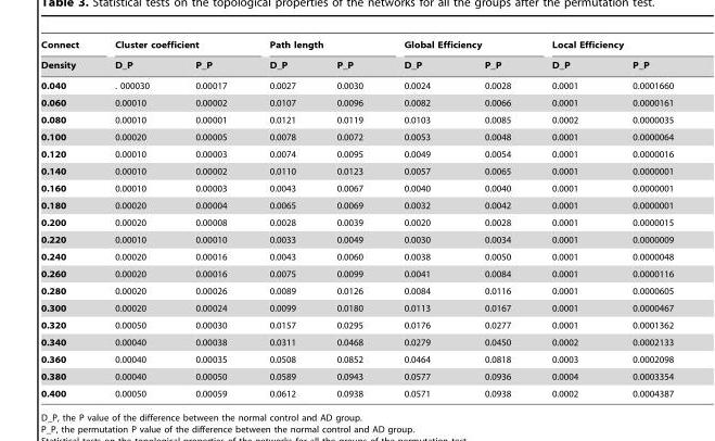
<table><thead><tr><td rowspan="2">Connect Density</td><td colspan="2">Cluster coefficient</td><td colspan="2">Path length</td><td colspan="2">Global Efficiency</td><td colspan="2">Local Efficiency</td></tr><tr><td>D_P</td><td>P_P</td><td>D_P</td><td>P_P</td><td>D_P</td><td>P_P</td><td>D_P</td><td>P_P</td></tr></thead><tbody><tr><td>0.040</td><td>. 000030</td><td>0.00017</td><td>0.0027</td><td>0.0030</td><td>0.0024</td><td>0.0028</td><td>0.0001</td><td>0.0001660</td></tr><tr><td>0.060</td><td>0.00010</td><td>0.00002</td><td>0.0107</td><td>0.0096</td><td>0.0082</td><td>0.0066</td><td>0.0001</td><td>0.0000161</td></tr><tr><td>0.080</td><td>0.00010</td><td>0.00001</td><td>0.0121</td><td>0.0119</td><td>0.0103</td><td>0.0085</td><td>0.0002</td><td>0.0000035</td></tr><tr><td>0.100</td><td>0.00020</td><td>0.00005</td><td>0.0078</td><td>0.0072</td><td>0.0053</td><td>0.0048</td><td>0.0001</td><td>0.0000064</td></tr><tr><td>0.120</td><td>0.00010</td><td>0.00003</td><td>0.0074</td><td>0.0095</td><td>0.0049</td><td>0.0054</td><td>0.0001</td><td>0.0000016</td></tr><tr><td>0.140</td><td>0.00010</td><td>0.00002</td><td>0.0110</td><td>0.0123</td><td>0.0057</td><td>0.0065</td><td>0.0001</td><td>0.0000001</td></tr><tr><td>0.160</td><td>0.00010</td><td>0.00003</td><td>0.0043</td><td>0.0067</td><td>0.0040</td><td>0.0040</td><td>0.0001</td><td>0.0000001</td></tr><tr><td>0.180</td><td>0.00020</td><td>0.00004</td><td>0.0065</td><td>0.0069</td><td>0.0032</td><td>0.0042</td><td>0.0001</td><td>0.0000001</td></tr><tr><td>0.200</td><td>0.00020</td><td>0.00008</td><td>0.0028</td><td>0.0039</td><td>0.0020</td><td>0.0028</td><td>0.0001</td><td>0.0000015</td></tr><tr><td>0.220</td><td>0.00010</td><td>0.00010</td><td>0.0033</td><td>0.0049</td><td>0.0030</td><td>0.0034</td><td>0.0001</td><td>0.0000009</td></tr><tr><td>0.240</td><td>0.00020</td><td>0.00016</td><td>0.0043</td><td>0.0060</td><td>0.0038</td><td>0.0050</td><td>0.0001</td><td>0.0000048</td></tr><tr><td>0.260</td><td>0.00020</td><td>0.00016</td><td>0.0075</td><td>0.0099</td><td>0.0041</td><td>0.0084</td><td>0.0001</td><td>0.0000116</td></tr><tr><td>0.280</td><td>0.00020</td><td>0.00026</td><td>0.0089</td><td>0.0126</td><td>0.0084</td><td>0.0116</td><td>0.0001</td><td>0.0000605</td></tr><tr><td>0.300</td><td>0.00020</td><td>0.00024</td><td>0.0099</td><td>0.0180</td><td>0.0113</td><td>0.0167</td><td>0.0001</td><td>0.0000467</td></tr><tr><td>0.320</td><td>0.00050</td><td>0.00030</td><td>0.0157</td><td>0.0295</td><td>0.0176</td><td>0.0277</td><td>0.0001</td><td>0.0001362</td></tr><tr><td>0.340</td><td>0.00040</td><td>0.00038</td><td>0.0311</td><td>0.0468</td><td>0.0279</td><td>0.0450</td><td>0.0002</td><td>0.0002133</td></tr><tr><td>0.360</td><td>0.00040</td><td>0.00035</td><td>0.0508</td><td>0.0852</td><td>0.0464</td><td>0.0818</td><td>0.0003</td><td>0.0002098</td></tr><tr><td>0.380</td><td>0.00040</td><td>0.00050</td><td>0.0589</td><td>0.0943</td><td>0.0577</td><td>0.0936</td><td>0.0004</td><td>0.0003354</td></tr><tr><td>0.400</td><td>0.00050</td><td>0.00059</td><td>0.0612</td><td>0.0938</td><td>0.0571</td><td>0.0938</td><td>0.0002</td><td>0.0004387</td></tr></tbody></table>